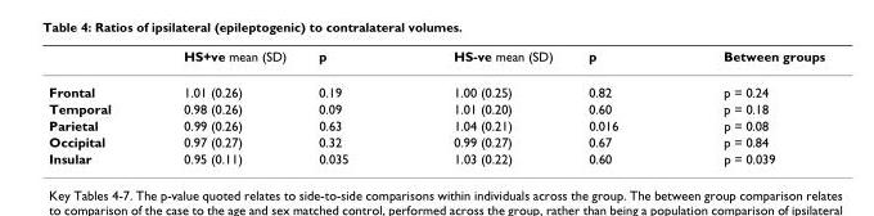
<table><thead><tr><td></td><td>HS+ve mean (SD)</td><td>p</td><td>HS-ve mean (SD)</td><td>p</td><td>Between groups</td></tr></thead><tbody><tr><td>Frontal</td><td>1.01 (0.26)</td><td>0.19</td><td>1.00 (0.25)</td><td>0.82</td><td>p = 0.24</td></tr><tr><td>Temporal</td><td>0.98 (0.26)</td><td>0.09</td><td>1.01 (0.20)</td><td>0.60</td><td>p = 0.18</td></tr><tr><td>Parietal</td><td>0.99 (0.26)</td><td>0.63</td><td>1.04 (0.21)</td><td>0.016</td><td>p = 0.08</td></tr><tr><td>Occipital</td><td>0.97 (0.27)</td><td>0.32</td><td>0.99 (0.27)</td><td>0.67</td><td>p = 0.84</td></tr><tr><td>Insular</td><td>0.95 (0.11)</td><td>0.035</td><td>1.03 (0.22)</td><td>0.60</td><td>p = 0.039</td></tr></tbody></table>